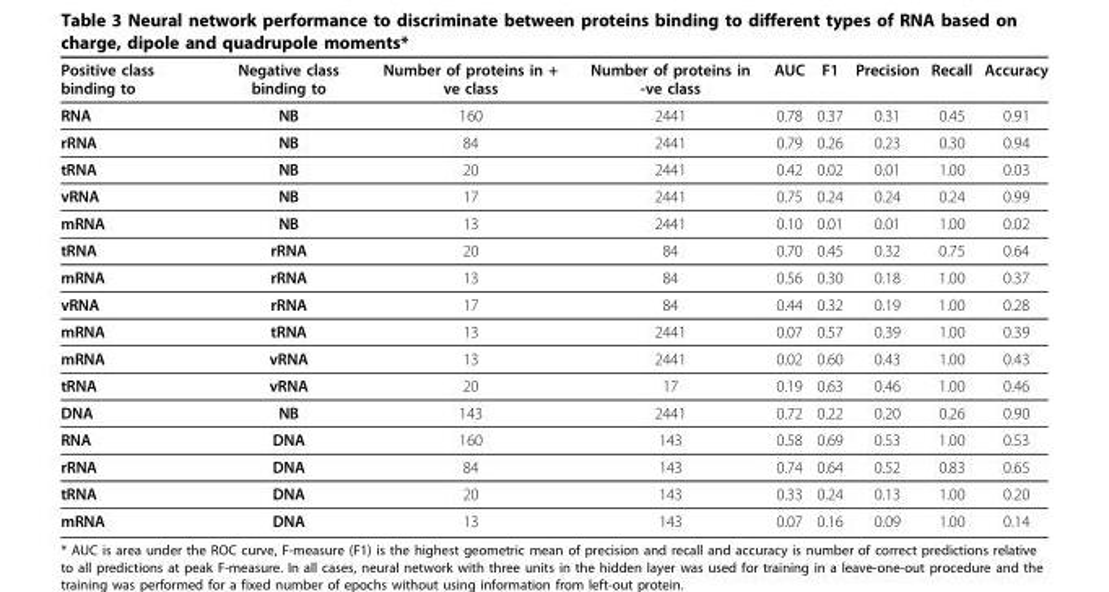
<table><thead><tr><td>Positive class binding to</td><td>Negative class binding to</td><td>Number of proteins in + ve class</td><td>Number of proteins in -ve class</td><td>AUC</td><td>F1</td><td>Precision</td><td>Recall</td><td>Accuracy</td></tr></thead><tbody><tr><td>RNA</td><td>NB</td><td>160</td><td>2441</td><td>0.78</td><td>0.37</td><td>0.31</td><td>0.45</td><td>0.91</td></tr><tr><td>rRNA</td><td>NB</td><td>84</td><td>2441</td><td>0.79</td><td>0.26</td><td>0.23</td><td>0.30</td><td>0.94</td></tr><tr><td>tRNA</td><td>NB</td><td>20</td><td>2441</td><td>0.42</td><td>0.02</td><td>0.01</td><td>1.00</td><td>0.03</td></tr><tr><td>vRNA</td><td>NB</td><td>17</td><td>2441</td><td>0.75</td><td>0.24</td><td>0.24</td><td>0.24</td><td>0.99</td></tr><tr><td>mRNA</td><td>NB</td><td>13</td><td>2441</td><td>0.10</td><td>0.01</td><td>0.01</td><td>1.00</td><td>0.02</td></tr><tr><td>tRNA</td><td>rRNA</td><td>20</td><td>84</td><td>0.70</td><td>0.45</td><td>0.32</td><td>0.75</td><td>0.64</td></tr><tr><td>mRNA</td><td>rRNA</td><td>13</td><td>84</td><td>0.56</td><td>0.30</td><td>0.18</td><td>1.00</td><td>0.37</td></tr><tr><td>vRNA</td><td>rRNA</td><td>17</td><td>84</td><td>0.44</td><td>0.32</td><td>0.19</td><td>1.00</td><td>0.28</td></tr><tr><td>mRNA</td><td>tRNA</td><td>13</td><td>2441</td><td>0.07</td><td>0.57</td><td>0.39</td><td>1.00</td><td>0.39</td></tr><tr><td>mRNA</td><td>vRNA</td><td>13</td><td>2441</td><td>0.02</td><td>0.60</td><td>0.43</td><td>1.00</td><td>0.43</td></tr><tr><td>tRNA</td><td>vRNA</td><td>20</td><td>17</td><td>0.19</td><td>0.63</td><td>0.46</td><td>1.00</td><td>0.46</td></tr><tr><td>DNA</td><td>NB</td><td>143</td><td>2441</td><td>0.72</td><td>0.22</td><td>0.20</td><td>0.26</td><td>0.90</td></tr><tr><td>RNA</td><td>DNA</td><td>160</td><td>143</td><td>0.58</td><td>0.69</td><td>0.53</td><td>1.00</td><td>0.53</td></tr><tr><td>rRNA</td><td>DNA</td><td>84</td><td>143</td><td>0.74</td><td>0.64</td><td>0.52</td><td>0.83</td><td>0.65</td></tr><tr><td>tRNA</td><td>DNA</td><td>20</td><td>143</td><td>0.33</td><td>0.24</td><td>0.13</td><td>1.00</td><td>0.20</td></tr><tr><td>mRNA</td><td>DNA</td><td>13</td><td>143</td><td>0.07</td><td>0.16</td><td>0.09</td><td>1.00</td><td>0.14</td></tr></tbody></table>